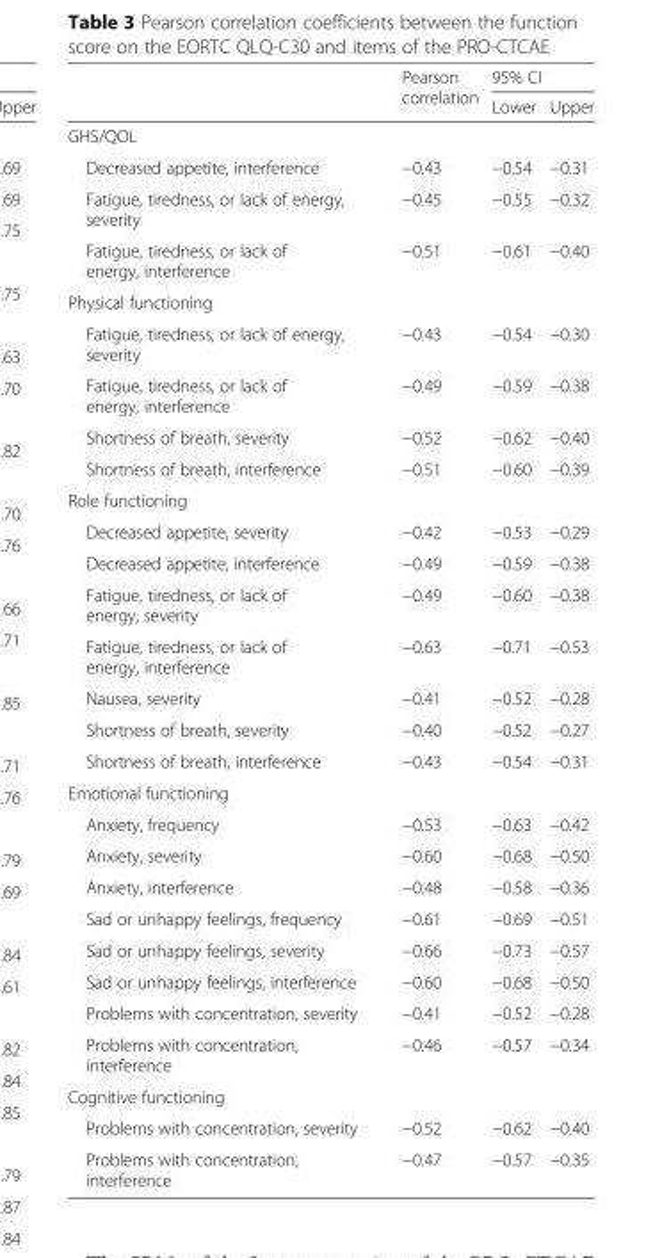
<table><thead><tr><td rowspan="2"></td><td rowspan="2">Pearson correlation</td><td colspan="2">95% CI</td></tr><tr><td>Lower</td><td>Upper</td></tr></thead><tbody><tr><td colspan="4">GHS/QOL</td></tr><tr><td>Decreased appetite, interference</td><td>−0.43</td><td>−0.54</td><td>−0.31</td></tr><tr><td>Fatigue, tiredness, or lack of energy, severity</td><td>−0.45</td><td>−0.55</td><td>−0.32</td></tr><tr><td>Fatigue, tiredness, or lack of energy, interference</td><td>−0.51</td><td>−0.61</td><td>−0.40</td></tr><tr><td colspan="4">Physical functioning</td></tr><tr><td>Fatigue, tiredness, or lack of energy, severity</td><td>−0.43</td><td>−0.54</td><td>−0.30</td></tr><tr><td>Fatigue, tiredness, or lack of energy, interference</td><td>−0.49</td><td>−0.59</td><td>−0.38</td></tr><tr><td>Shortness of breath, severity</td><td>−0.52</td><td>−0.62</td><td>−0.40</td></tr><tr><td>Shortness of breath, interference</td><td>−0.51</td><td>−0.60</td><td>−0.39</td></tr><tr><td colspan="4">Role functioning</td></tr><tr><td>Decreased appetite, severity</td><td>−0.42</td><td>−0.53</td><td>−0.29</td></tr><tr><td>Decreased appetite, interference</td><td>−0.49</td><td>−0.59</td><td>−0.38</td></tr><tr><td>Fatigue, tiredness, or lack of energy, severity</td><td>−0.49</td><td>−0.60</td><td>−0.38</td></tr><tr><td>Fatigue, tiredness, or lack of energy, interference</td><td>−0.63</td><td>−0.71</td><td>−0.53</td></tr><tr><td>Nausea, severity</td><td>−0.41</td><td>−0.52</td><td>−0.28</td></tr><tr><td>Shortness of breath, severity</td><td>−0.40</td><td>−0.52</td><td>−0.27</td></tr><tr><td>Shortness of breath, interference</td><td>−0.43</td><td>−0.54</td><td>−0.31</td></tr><tr><td colspan="4">Emotional functioning</td></tr><tr><td>Anxiety, frequency</td><td>−0.53</td><td>−0.63</td><td>−0.42</td></tr><tr><td>Anxiety, severity</td><td>−0.60</td><td>−0.68</td><td>−0.50</td></tr><tr><td>Anxiety, interference</td><td>−0.48</td><td>−0.58</td><td>−0.36</td></tr><tr><td>Sad or unhappy feelings, frequency</td><td>−0.61</td><td>−0.69</td><td>−0.51</td></tr><tr><td>Sad or unhappy feelings, severity</td><td>−0.66</td><td>−0.73</td><td>−0.57</td></tr><tr><td>Sad or unhappy feelings, interference</td><td>−0.60</td><td>−0.68</td><td>−0.50</td></tr><tr><td>Problems with concentration, severity</td><td>−0.41</td><td>−0.52</td><td>−0.28</td></tr><tr><td>Problems with concentration, interference</td><td>−0.46</td><td>−0.57</td><td>−0.34</td></tr><tr><td colspan="4">Cognitive functioning</td></tr><tr><td>Problems with concentration, severity</td><td>−0.52</td><td>−0.62</td><td>−0.40</td></tr><tr><td>Problems with concentration, interference</td><td>−0.47</td><td>−0.57</td><td>−0.35</td></tr></tbody></table>